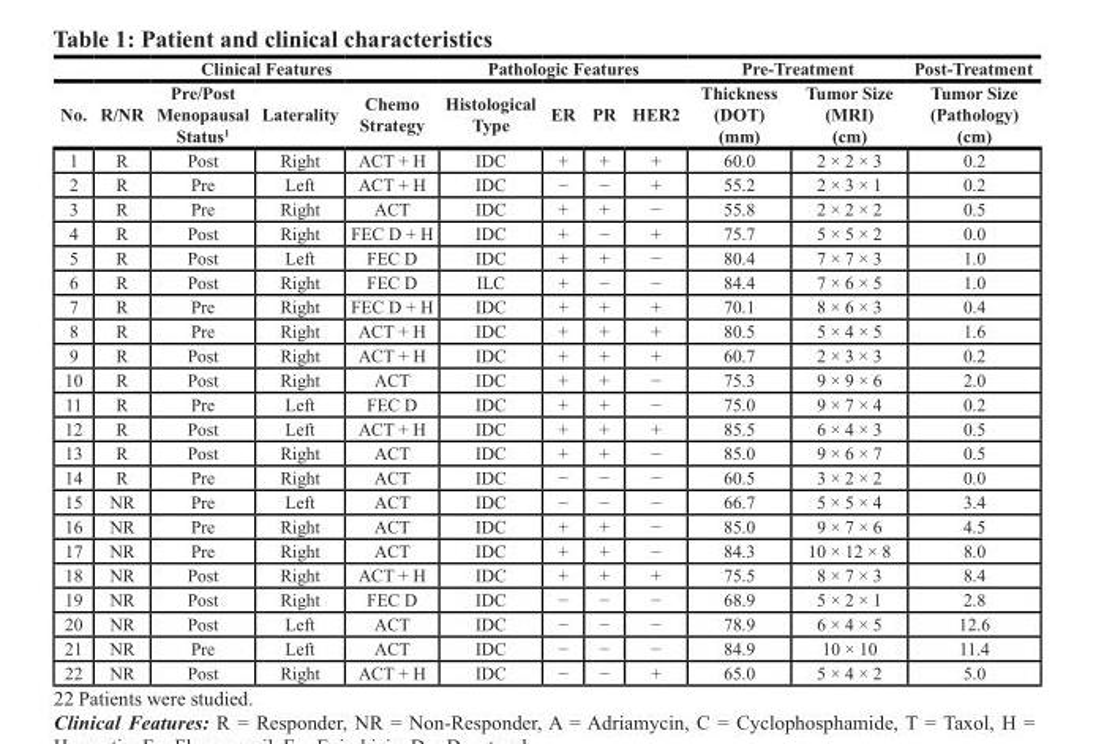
<table><thead><tr><td rowspan="2">No.</td><td colspan="4">Clinical Features</td><td colspan="4">Pathologic Features</td><td colspan="2">Pre-Treatment</td><td rowspan="2">Post-Treatment Tumor Size (Pathology) (cm)</td></tr><tr><td>R/NR</td><td>Pre/Post Menopausal Status<sup>1</sup></td><td>Laterality</td><td>Chemo Strategy</td><td>Histological Type</td><td>ER</td><td>PR</td><td>HER2</td><td>Thickness (DOT) (mm)</td><td>Tumor Size (MRI) (cm)</td></tr></thead><tbody><tr><td>1</td><td>R</td><td>Post</td><td>Right</td><td>ACT + H</td><td>IDC</td><td>+</td><td>+</td><td>+</td><td>60.0</td><td>2 × 2 × 3</td><td>0.2</td></tr><tr><td>2</td><td>R</td><td>Pre</td><td>Left</td><td>ACT + H</td><td>IDC</td><td>−</td><td>−</td><td>+</td><td>55.2</td><td>2 × 3 × 1</td><td>0.2</td></tr><tr><td>3</td><td>R</td><td>Pre</td><td>Right</td><td>ACT</td><td>IDC</td><td>+</td><td>+</td><td>−</td><td>55.8</td><td>2 × 2 × 2</td><td>0.5</td></tr><tr><td>4</td><td>R</td><td>Post</td><td>Right</td><td>FEC D + H</td><td>IDC</td><td>+</td><td>−</td><td>+</td><td>75.7</td><td>5 × 5 × 2</td><td>0.0</td></tr><tr><td>5</td><td>R</td><td>Post</td><td>Left</td><td>FEC D</td><td>IDC</td><td>+</td><td>+</td><td>−</td><td>80.4</td><td>7 × 7 × 3</td><td>1.0</td></tr><tr><td>6</td><td>R</td><td>Post</td><td>Right</td><td>FEC D</td><td>ILC</td><td>+</td><td>−</td><td>−</td><td>84.4</td><td>7 × 6 × 5</td><td>1.0</td></tr><tr><td>7</td><td>R</td><td>Pre</td><td>Right</td><td>FEC D + H</td><td>IDC</td><td>+</td><td>+</td><td>+</td><td>70.1</td><td>8 × 6 × 3</td><td>0.4</td></tr><tr><td>8</td><td>R</td><td>Pre</td><td>Right</td><td>ACT + H</td><td>IDC</td><td>+</td><td>+</td><td>+</td><td>80.5</td><td>5 × 4 × 5</td><td>1.6</td></tr><tr><td>9</td><td>R</td><td>Post</td><td>Right</td><td>ACT + H</td><td>IDC</td><td>+</td><td>+</td><td>+</td><td>60.7</td><td>2 × 3 × 3</td><td>0.2</td></tr><tr><td>10</td><td>R</td><td>Post</td><td>Right</td><td>ACT</td><td>IDC</td><td>+</td><td>+</td><td>−</td><td>75.3</td><td>9 × 9 × 6</td><td>2.0</td></tr><tr><td>11</td><td>R</td><td>Pre</td><td>Left</td><td>FEC D</td><td>IDC</td><td>+</td><td>+</td><td>−</td><td>75.0</td><td>9 × 7 × 4</td><td>0.2</td></tr><tr><td>12</td><td>R</td><td>Post</td><td>Left</td><td>ACT + H</td><td>IDC</td><td>+</td><td>+</td><td>+</td><td>85.5</td><td>6 × 4 × 3</td><td>0.5</td></tr><tr><td>13</td><td>R</td><td>Post</td><td>Right</td><td>ACT</td><td>IDC</td><td>+</td><td>+</td><td>−</td><td>85.0</td><td>9 × 6 × 7</td><td>0.5</td></tr><tr><td>14</td><td>R</td><td>Pre</td><td>Right</td><td>ACT</td><td>IDC</td><td>−</td><td>−</td><td>−</td><td>60.5</td><td>3 × 2 × 2</td><td>0.0</td></tr><tr><td>15</td><td>NR</td><td>Pre</td><td>Left</td><td>ACT</td><td>IDC</td><td>−</td><td>−</td><td>−</td><td>66.7</td><td>5 × 5 × 4</td><td>3.4</td></tr><tr><td>16</td><td>NR</td><td>Pre</td><td>Right</td><td>ACT</td><td>IDC</td><td>+</td><td>+</td><td>−</td><td>85.0</td><td>9 × 7 × 6</td><td>4.5</td></tr><tr><td>17</td><td>NR</td><td>Pre</td><td>Right</td><td>ACT</td><td>IDC</td><td>+</td><td>+</td><td>−</td><td>84.3</td><td>10 × 12 × 8</td><td>8.0</td></tr><tr><td>18</td><td>NR</td><td>Post</td><td>Right</td><td>ACT + H</td><td>IDC</td><td>+</td><td>+</td><td>+</td><td>75.5</td><td>8 × 7 × 3</td><td>8.4</td></tr><tr><td>19</td><td>NR</td><td>Post</td><td>Right</td><td>FEC D</td><td>IDC</td><td>−</td><td>−</td><td>−</td><td>68.9</td><td>5 × 2 × 1</td><td>2.8</td></tr><tr><td>20</td><td>NR</td><td>Post</td><td>Left</td><td>ACT</td><td>IDC</td><td>−</td><td>−</td><td>−</td><td>78.9</td><td>6 × 4 × 5</td><td>12.6</td></tr><tr><td>21</td><td>NR</td><td>Pre</td><td>Left</td><td>ACT</td><td>IDC</td><td>−</td><td>−</td><td>−</td><td>84.9</td><td>10 × 10</td><td>11.4</td></tr><tr><td>22</td><td>NR</td><td>Post</td><td>Right</td><td>ACT + H</td><td>IDC</td><td>−</td><td>−</td><td>+</td><td>65.0</td><td>5 × 4 × 2</td><td>5.0</td></tr></tbody></table>